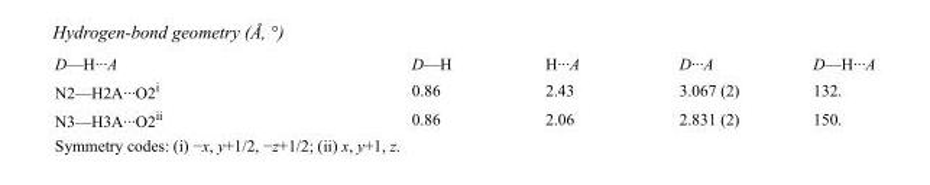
<table><tbody><tr><td>D—H···A</td><td>D—H</td><td>H···A</td><td>D···A</td><td>D—H···A</td></tr><tr><td>N2—H2A···O2<sup>i</sup></td><td>0.86</td><td>2.43</td><td>3.067 (2)</td><td>132.</td></tr><tr><td>N3—H3A···O2<sup>ii</sup></td><td>0.86</td><td>2.06</td><td>2.831 (2)</td><td>150.</td></tr></tbody></table>